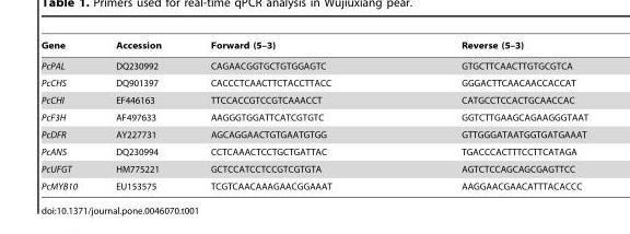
<table><thead><tr><td>Gene</td><td>Accession</td><td>Forward (5–3)</td><td>Reverse (5–3)</td></tr></thead><tbody><tr><td>PcPAL</td><td>DQ230992</td><td>CAGAACGGTGCTGTGGAGTC</td><td>GTGCTTCAACTTGTGCGTCA</td></tr><tr><td>PcCHS</td><td>DQ901397</td><td>CACCCTCAACTTCTACCTTACC</td><td>GGGACTTCAACAACCACCAT</td></tr><tr><td>PcCHI</td><td>EF446163</td><td>TTCCACCGTCCGTCAAACCT</td><td>CATGCCTCCACTGCAACCAC</td></tr><tr><td>PcF3H</td><td>AF497633</td><td>AAGGGTGGATTCATCGTGTC</td><td>GGTCTTGAAGCAGAAGGGTAAT</td></tr><tr><td>PcDFR</td><td>AY227731</td><td>AGCAGGAACTGTGAATGTGG</td><td>GTTGGGATAATGGTGATGAAAT</td></tr><tr><td>PcANS</td><td>DQ230994</td><td>CCTCAAACTCCTGCTGATTAC</td><td>TGACCCACTTTCCTTCATAGA</td></tr><tr><td>PcUFGT</td><td>HM775221</td><td>GCTCCATCCTCCGTCGTGTA</td><td>AGTCTCCAGCAGCGAGTTCC</td></tr><tr><td>PcMYB10</td><td>EU153575</td><td>TCGTCAACAAAGAACGGAAAT</td><td>AAGGAACGAACATTTACACCC</td></tr></tbody></table>